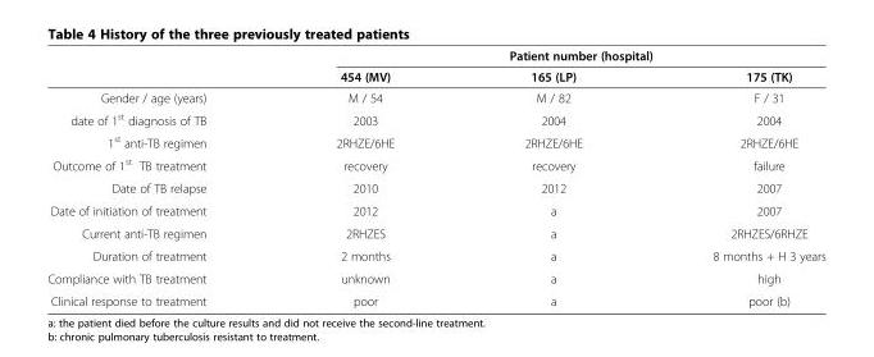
<table><thead><tr><td rowspan="2"></td><td colspan="3">Patient number (hospital)</td></tr><tr><td>454 (MV)</td><td>165 (LP)</td><td>175 (TK)</td></tr></thead><tbody><tr><td>Gender / age (years)</td><td>M / 54</td><td>M / 82</td><td>F / 31</td></tr><tr><td>date of 1<sup>st</sup> diagnosis of TB</td><td>2003</td><td>2004</td><td>2004</td></tr><tr><td>1<sup>st</sup> anti-TB regimen</td><td>2RHZE/6HE</td><td>2RHZE/6HE</td><td>2RHZE/6HE</td></tr><tr><td>Outcome of 1<sup>st</sup> TB treatment</td><td>recovery</td><td>recovery</td><td>failure</td></tr><tr><td>Date of TB relapse</td><td>2010</td><td>2012</td><td>2007</td></tr><tr><td>Date of initiation of treatment</td><td>2012</td><td>a</td><td>2007</td></tr><tr><td>Current anti-TB regimen</td><td>2RHZES</td><td>a</td><td>2RHZES/6RHZE</td></tr><tr><td>Duration of treatment</td><td>2 months</td><td>a</td><td>8 months + H 3 years</td></tr><tr><td>Compliance with TB treatment</td><td>unknown</td><td>a</td><td>high</td></tr><tr><td>Clinical response to treatment</td><td>poor</td><td>a</td><td>poor (b)</td></tr></tbody></table>